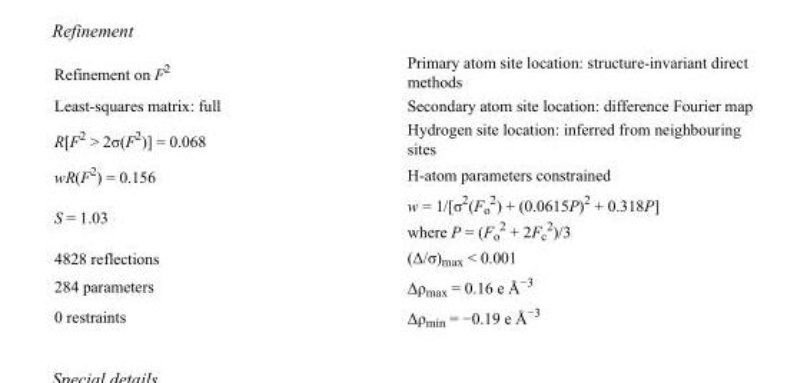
<table><tbody><tr><td>Refinement on F<sup>2</sup></td><td>Primary atom site location: structure-invariant direct methods</td></tr><tr><td>Least-squares matrix: full</td><td>Secondary atom site location: difference Fourier map</td></tr><tr><td>R[F<sup>2</sup> &gt; 2σ(F<sup>2</sup>)] = 0.068</td><td>Hydrogen site location: inferred from neighbouring sites</td></tr><tr><td>wR(F<sup>2</sup>) = 0.156</td><td>H-atom parameters constrained</td></tr><tr><td>S = 1.03</td><td>w = 1/[σ<sup>2</sup>(F<sub>o</sub> <sup>2</sup>) + (0.0615P)<sup>2</sup> + 0.318P] where P = (F<sub>o</sub> <sup>2</sup> + 2F<sub>c</sub> <sup>2</sup>)/3</td></tr><tr><td>4828 reflections</td><td>(Δ/σ)<sub>max</sub> &lt; 0.001</td></tr><tr><td>284 parameters</td><td>Δρ<sub>max</sub> = 0.16 e Å<sup>−3</sup></td></tr><tr><td>0 restraints</td><td>Δρ<sub>min</sub> = −0.19 e Å<sup>−3</sup></td></tr></tbody></table>